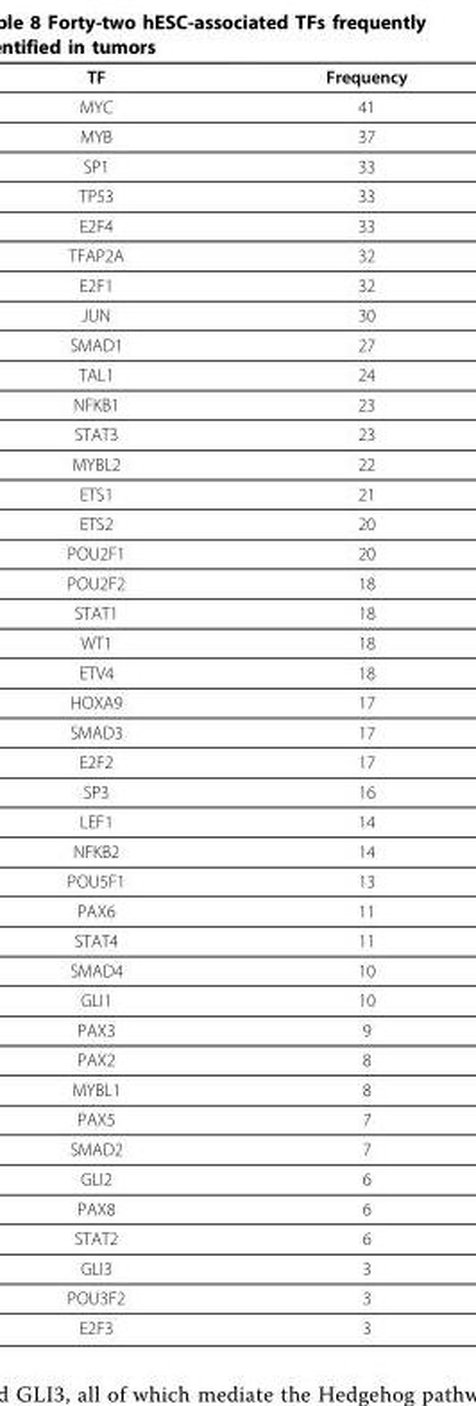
<table><thead><tr><td>TF</td><td>Frequency</td></tr></thead><tbody><tr><td>MYC</td><td>41</td></tr><tr><td>MYB</td><td>37</td></tr><tr><td>SP1</td><td>33</td></tr><tr><td>TP53</td><td>33</td></tr><tr><td>E2F4</td><td>33</td></tr><tr><td>TFAP2A</td><td>32</td></tr><tr><td>E2F1</td><td>32</td></tr><tr><td>JUN</td><td>30</td></tr><tr><td>SMAD1</td><td>27</td></tr><tr><td>TAL1</td><td>24</td></tr><tr><td>NFKB1</td><td>23</td></tr><tr><td>STAT3</td><td>23</td></tr><tr><td>MYBL2</td><td>22</td></tr><tr><td>ETS1</td><td>21</td></tr><tr><td>ETS2</td><td>20</td></tr><tr><td>POU2F1</td><td>20</td></tr><tr><td>POU2F2</td><td>18</td></tr><tr><td>STAT1</td><td>18</td></tr><tr><td>WT1</td><td>18</td></tr><tr><td>ETV4</td><td>18</td></tr><tr><td>HOXA9</td><td>17</td></tr><tr><td>SMAD3</td><td>17</td></tr><tr><td>E2F2</td><td>17</td></tr><tr><td>SP3</td><td>16</td></tr><tr><td>LEF1</td><td>14</td></tr><tr><td>NFKB2</td><td>14</td></tr><tr><td>POU5F1</td><td>13</td></tr><tr><td>PAX6</td><td>11</td></tr><tr><td>STAT4</td><td>11</td></tr><tr><td>SMAD4</td><td>10</td></tr><tr><td>GLI1</td><td>10</td></tr><tr><td>PAX3</td><td>9</td></tr><tr><td>PAX2</td><td>8</td></tr><tr><td>MYBL1</td><td>8</td></tr><tr><td>PAX5</td><td>7</td></tr><tr><td>SMAD2</td><td>7</td></tr><tr><td>GLI2</td><td>6</td></tr><tr><td>PAX8</td><td>6</td></tr><tr><td>STAT2</td><td>6</td></tr><tr><td>GLI3</td><td>3</td></tr><tr><td>POU3F2</td><td>3</td></tr><tr><td>E2F3</td><td>3</td></tr></tbody></table>